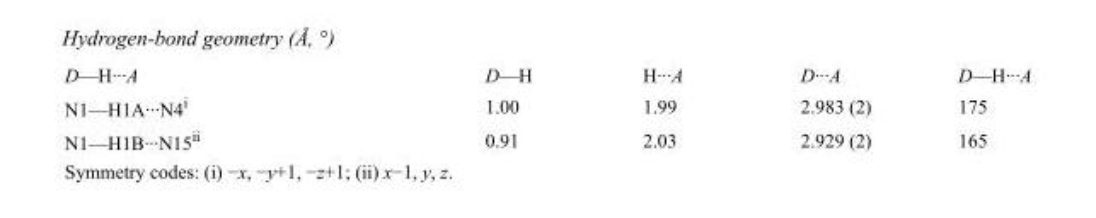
<table><tbody><tr><td>D—H···A</td><td>D—H</td><td>H···A</td><td>D···A</td><td>D—H···A</td></tr><tr><td>N1—H1A···N4<sup>i</sup></td><td>1.00</td><td>1.99</td><td>2.983 (2)</td><td>175</td></tr><tr><td>N1—H1B···N15<sup>ii</sup></td><td>0.91</td><td>2.03</td><td>2.929 (2)</td><td>165</td></tr></tbody></table>